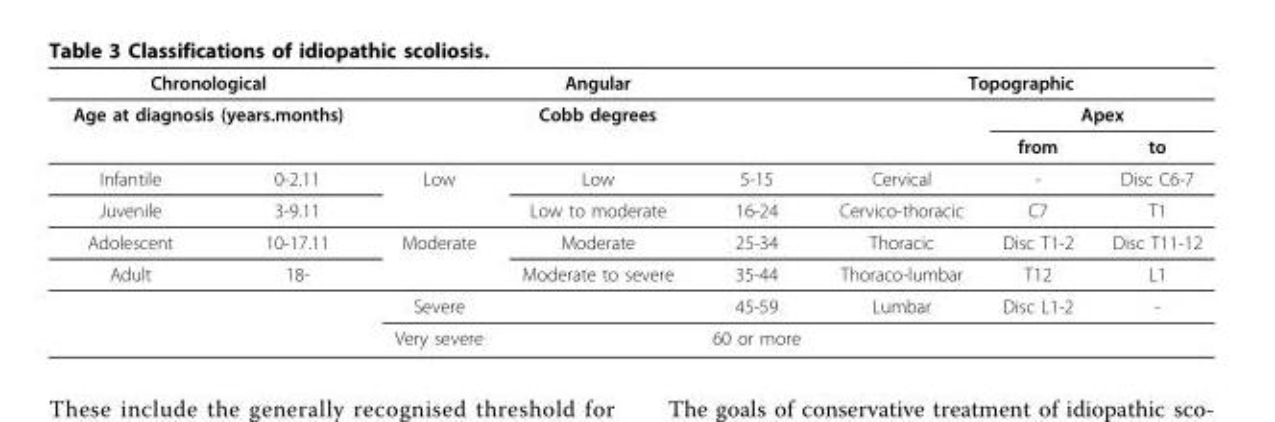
<table><thead><tr><td rowspan="2" colspan="2">Chronological Age at diagnosis (years.months)</td><td rowspan="2" colspan="3">Angular Cobb degrees</td><td colspan="3">Topographic</td></tr><tr><td rowspan="2"></td><td colspan="2">Apex</td></tr><tr><td></td><td></td><td></td><td></td><td></td><td>from</td><td>to</td></tr></thead><tbody><tr><td>Infantile</td><td>0-2.11</td><td>Low</td><td>Low</td><td>5-15</td><td>Cervical</td><td>-</td><td>Disc C6-7</td></tr><tr><td>Juvenile</td><td>3-9.11</td><td></td><td>Low to moderate</td><td>16-24</td><td>Cervico-thoracic</td><td>C7</td><td>T1</td></tr><tr><td>Adolescent</td><td>10-17.11</td><td>Moderate</td><td>Moderate</td><td>25-34</td><td>Thoracic</td><td>Disc T1-2</td><td>Disc T11-12</td></tr><tr><td rowspan="3">Adult</td><td>18-</td><td></td><td>Moderate to severe</td><td>35-44</td><td>Thoraco-lumbar</td><td>T12</td><td>L1</td></tr><tr><td></td><td>Severe</td><td></td><td>45-59</td><td>Lumbar</td><td>Disc L1-2</td><td>-</td></tr><tr><td></td><td>Very severe</td><td></td><td>60 or more</td><td></td><td></td><td></td></tr></tbody></table>